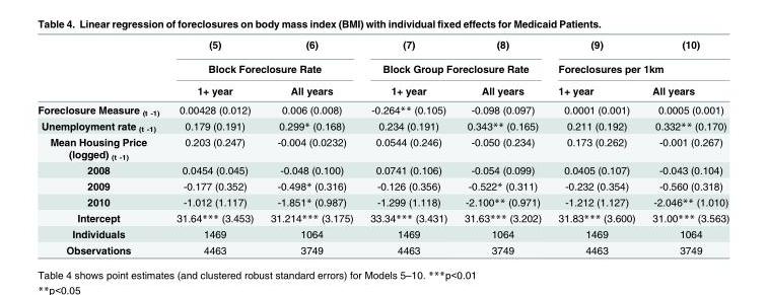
<table><thead><tr><td rowspan="3"></td><td>(5)</td><td>(6)</td><td>(7)</td><td>(8)</td><td>(9)</td><td>(10)</td></tr><tr><td colspan="2">Block Foreclosure Rate</td><td colspan="2">Block Group Foreclosure Rate</td><td colspan="2">Foreclosures per 1km</td></tr><tr><td>1+ year</td><td>All years</td><td>1+ year</td><td>All years</td><td>1+ year</td><td>All years</td></tr></thead><tbody><tr><td>Foreclosure Measure <sub>(t -1)</sub></td><td>0.00428 (0.012)</td><td>0.006 (0.008)</td><td>-0.264** (0.105)</td><td>-0.098 (0.097)</td><td>0.0001 (0.001)</td><td>0.0005 (0.001)</td></tr><tr><td>Unemployment rate <sub>(t -1)</sub></td><td>0.179 (0.191)</td><td>0.299* (0.168)</td><td>0.234 (0.191)</td><td>0.343** (0.165)</td><td>0.211 (0.192)</td><td>0.332** (0.170)</td></tr><tr><td>Mean Housing Price (logged) <sub>(t -1)</sub></td><td>0.203 (0.247)</td><td>-0.004 (0.0232)</td><td>0.0544 (0.246)</td><td>-0.050 (0.234)</td><td>0.173 (0.262)</td><td>-0.001 (0.267)</td></tr><tr><td>2008</td><td>0.0454 (0.045)</td><td>-0.048 (0.100)</td><td>0.0741 (0.106)</td><td>-0.054 (0.099)</td><td>0.0405 (0.107)</td><td>-0.043 (0.104)</td></tr><tr><td>2009</td><td>-0.177 (0.352)</td><td>-0.498* (0.316)</td><td>-0.126 (0.356)</td><td>-0.522* (0.311)</td><td>-0.232 (0.354)</td><td>-0.560 (0.318)</td></tr><tr><td>2010</td><td>-1.012 (1.117)</td><td>-1.851* (0.987)</td><td>-1.299 (1.118)</td><td>-2.100** (0.971)</td><td>-1.212 (1.127)</td><td>-2.046** (1.010)</td></tr><tr><td>Intercept</td><td>31.64*** (3.453)</td><td>31.214*** (3.175)</td><td>33.34*** (3.431)</td><td>31.63*** (3.202)</td><td>31.83*** (3.600)</td><td>31.00*** (3.563)</td></tr><tr><td>Individuals</td><td>1469</td><td>1064</td><td>1469</td><td>1064</td><td>1469</td><td>1064</td></tr><tr><td>Observations</td><td>4463</td><td>3749</td><td>4463</td><td>3749</td><td>4463</td><td>3749</td></tr></tbody></table>